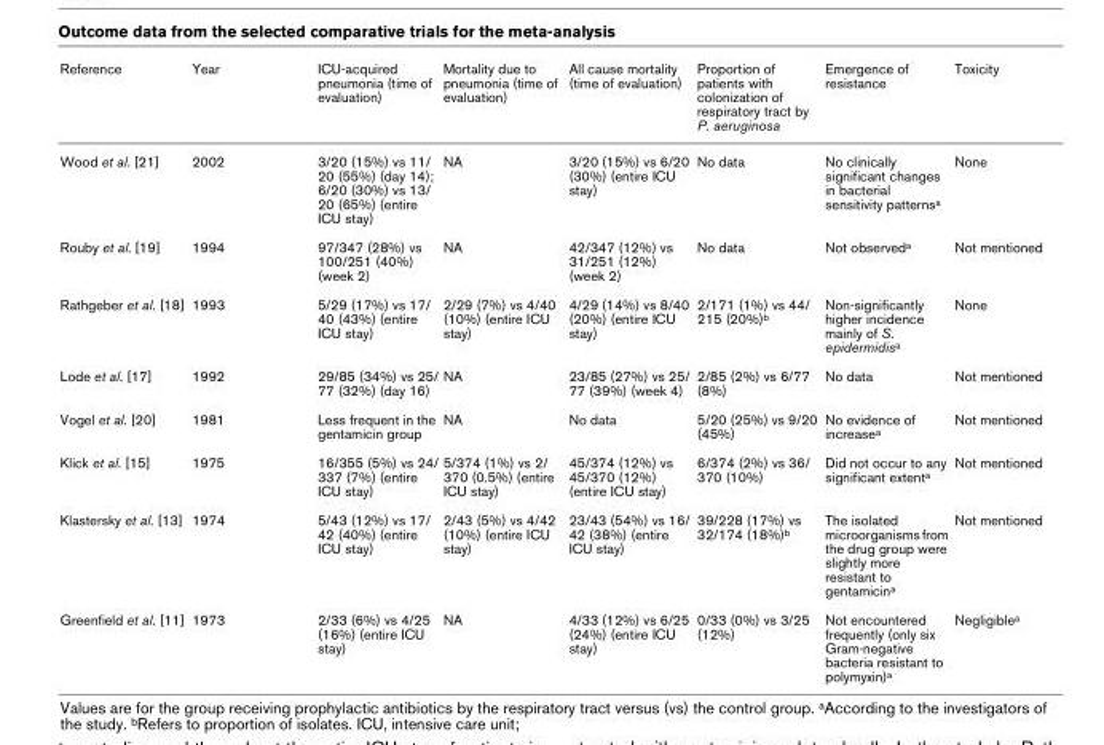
<table><thead><tr><td>Reference</td><td>Year</td><td>ICU-acquired pneumonia (time of evaluation)</td><td>Mortality due to pneumonia (time of evaluation)</td><td>All cause mortality (time of evaluation)</td><td>Proportion of patients with colonization of respiratory tract by P. aeruginosa</td><td>Emergence of resistance</td><td>Toxicity</td></tr></thead><tbody><tr><td>Wood et al. [21]</td><td>2002</td><td>3/20 (15%) vs 11/ 20 (55%) (day 14); 6/20 (30%) vs 13/ 20 (65%) (entire ICU stay)</td><td>NA</td><td>3/20 (15%) vs 6/20 (30%) (entire ICU stay)</td><td>No data</td><td>No clinically significant changes in bacterial sensitivity patternsa</td><td>None</td></tr><tr><td>Rouby et al. [19]</td><td>1994</td><td>97/347 (28%) vs 100/251 (40%) (week 2)</td><td>NA</td><td>42/347 (12%) vs 31/251 (12%) (week 2)</td><td>No data</td><td>Not observeda</td><td>Not mentioned</td></tr><tr><td>Rathgeber et al. [18]</td><td>1993</td><td>5/29 (17%) vs 17/ 40 (43%) (entire ICU stay)</td><td>2/29 (7%) vs 4/40 (10%) (entire ICU stay)</td><td>4/29 (14%) vs 8/40 (20%) (entire ICU stay)</td><td>2/171 (1%) vs 44/ 215 (20%)b</td><td>Non-significantly higher incidence mainly of S. epidermidisa</td><td>None</td></tr><tr><td>Lode et al. [17]</td><td>1992</td><td>29/85 (34%) vs 25/ 77 (32%) (day 16)</td><td>NA</td><td>23/85 (27%) vs 25/ 77 (39%) (week 4)</td><td>2/85 (2%) vs 6/77 (8%)</td><td>No data</td><td>Not mentioned</td></tr><tr><td>Vogel et al. [20]</td><td>1981</td><td>Less frequent in the gentamicin group</td><td>NA</td><td>No data</td><td>5/20 (25%) vs 9/20 (45%)</td><td>No evidence of increasea</td><td>Not mentioned</td></tr><tr><td>Klick et al. [15]</td><td>1975</td><td>16/355 (5%) vs 24/ 337 (7%) (entire ICU stay)</td><td>5/374 (1%) vs 2/ 370 (0.5%) (entire ICU stay)</td><td>45/374 (12%) vs 45/370 (12%) (entire ICU stay)</td><td>6/374 (2%) vs 36/ 370 (10%)</td><td>Did not occur to any significant extenta</td><td>Not mentioned</td></tr><tr><td>Klastersky et al. [13]</td><td>1974</td><td>5/43 (12%) vs 17/ 42 (40%) (entire ICU stay)</td><td>2/43 (5%) vs 4/42 (10%) (entire ICU stay)</td><td>23/43 (54%) vs 16/ 42 (38%) (entire ICU stay)</td><td>39/228 (17%) vs 32/174 (18%)b</td><td>The isolated microorganisms from the drug group were slightly more resistant to gentamicina</td><td>Not mentioned</td></tr><tr><td>Greenfield et al. [11]</td><td>1973</td><td>2/33 (6%) vs 4/25 (16%) (entire ICU stay)</td><td>NA</td><td>4/33 (12%) vs 6/25 (24%) (entire ICU stay)</td><td>0/33 (0%) vs 3/25 (12%)</td><td>Not encountered frequently (only six Gram-negative bacteria resistant to polymyxin)a</td><td>Negligiblea</td></tr></tbody></table>